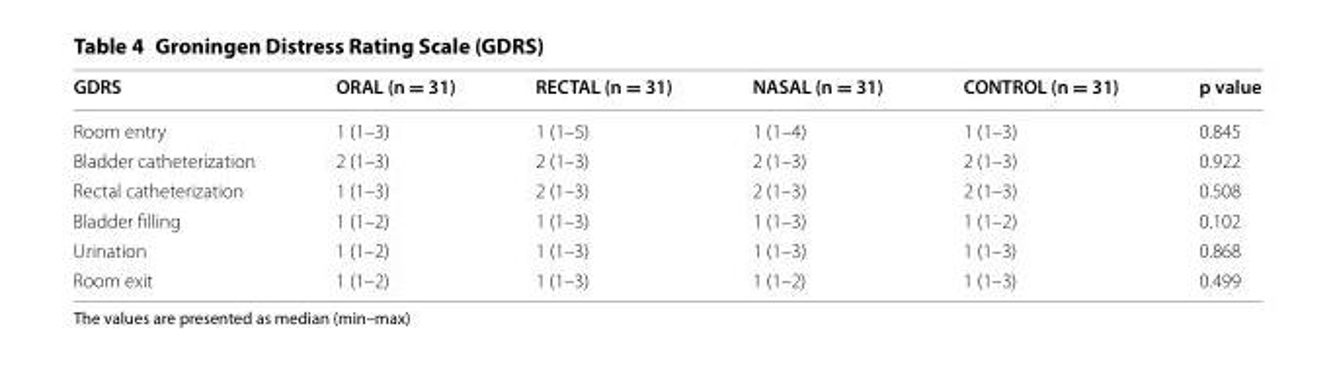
<table><thead><tr><td>GDRS</td><td>ORAL (n = 31)</td><td>RECTAL (n = 31)</td><td>NASAL (n = 31)</td><td>CONTROL (n = 31)</td><td>p value</td></tr></thead><tbody><tr><td>Room entry</td><td>1 (1–3)</td><td>1 (1–5)</td><td>1 (1–4)</td><td>1 (1–3)</td><td>0.845</td></tr><tr><td>Bladder catheterization</td><td>2 (1–3)</td><td>2 (1–3)</td><td>2 (1–3)</td><td>2 (1–3)</td><td>0.922</td></tr><tr><td>Rectal catheterization</td><td>1 (1–3)</td><td>2 (1–3)</td><td>2 (1–3)</td><td>2 (1–3)</td><td>0.508</td></tr><tr><td>Bladder filling</td><td>1 (1–2)</td><td>1 (1–3)</td><td>1 (1–3)</td><td>1 (1–2)</td><td>0.102</td></tr><tr><td>Urination</td><td>1 (1–2)</td><td>1 (1–3)</td><td>1 (1–3)</td><td>1 (1–3)</td><td>0.868</td></tr><tr><td>Room exit</td><td>1 (1–2)</td><td>1 (1–3)</td><td>1 (1–2)</td><td>1 (1–3)</td><td>0.499</td></tr></tbody></table>